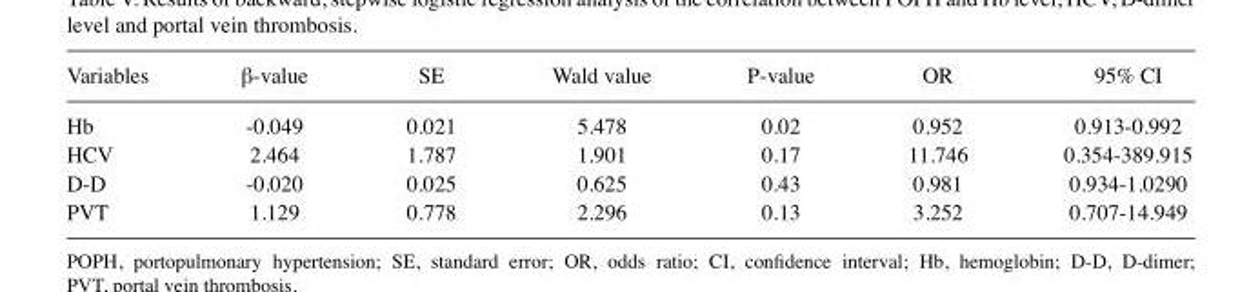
<table><thead><tr><td>Variables</td><td>β-value</td><td>SE</td><td>Wald value</td><td>P-value</td><td>OR</td><td>95% CI</td></tr></thead><tbody><tr><td>Hb</td><td>-0.049</td><td>0.021</td><td>5.478</td><td>0.02</td><td>0.952</td><td>0.913-0.992</td></tr><tr><td>HCV</td><td>2.464</td><td>1.787</td><td>1.901</td><td>0.17</td><td>11.746</td><td>0.354-389.915</td></tr><tr><td>D-D</td><td>-0.020</td><td>0.025</td><td>0.625</td><td>0.43</td><td>0.981</td><td>0.934-1.0290</td></tr><tr><td>PVT</td><td>1.129</td><td>0.778</td><td>2.296</td><td>0.13</td><td>3.252</td><td>0.707-14.949</td></tr></tbody></table>